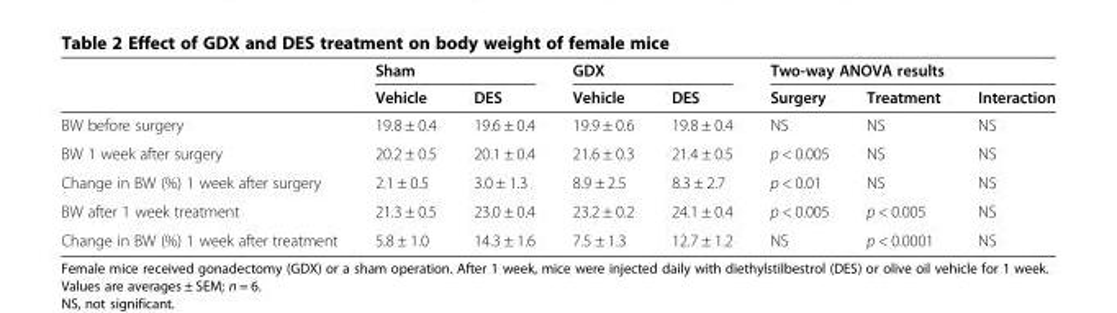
<table><thead><tr><td rowspan="2"></td><td colspan="2">Sham</td><td colspan="2">GDX</td><td colspan="3">Two-way ANOVA results</td></tr><tr><td>Vehicle</td><td>DES</td><td>Vehicle</td><td>DES</td><td>Surgery</td><td>Treatment</td><td>Interaction</td></tr></thead><tbody><tr><td>BW before surgery</td><td>19.8 ± 0.4</td><td>19.6 ± 0.4</td><td>19.9 ± 0.6</td><td>19.8 ± 0.4</td><td>NS</td><td>NS</td><td>NS</td></tr><tr><td>BW 1 week after surgery</td><td>20.2 ± 0.5</td><td>20.1 ± 0.4</td><td>21.6 ± 0.3</td><td>21.4 ± 0.5</td><td>p &lt; 0.005</td><td>NS</td><td>NS</td></tr><tr><td>Change in BW (%) 1 week after surgery</td><td>2.1 ± 0.5</td><td>3.0 ± 1.3</td><td>8.9 ± 2.5</td><td>8.3 ± 2.7</td><td>p &lt; 0.01</td><td>NS</td><td>NS</td></tr><tr><td>BW after 1 week treatment</td><td>21.3 ± 0.5</td><td>23.0 ± 0.4</td><td>23.2 ± 0.2</td><td>24.1 ± 0.4</td><td>p &lt; 0.005</td><td>p &lt; 0.005</td><td>NS</td></tr><tr><td>Change in BW (%) 1 week after treatment</td><td>5.8 ± 1.0</td><td>14.3 ± 1.6</td><td>7.5 ± 1.3</td><td>12.7 ± 1.2</td><td>NS</td><td>p &lt; 0.0001</td><td>NS</td></tr></tbody></table>